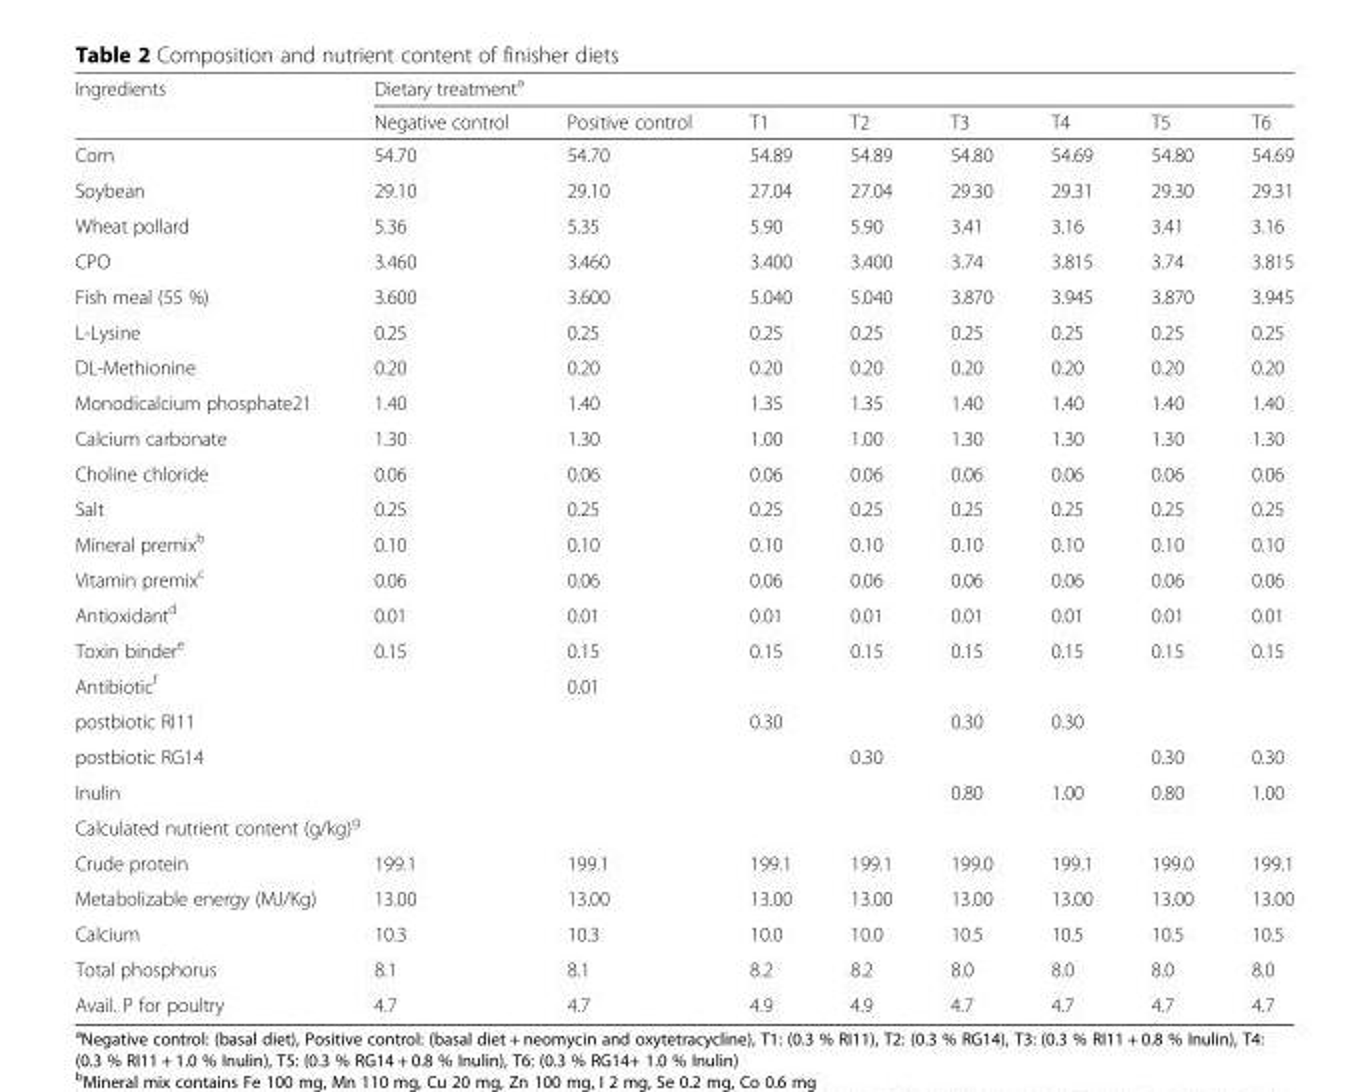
<table><thead><tr><td rowspan="2">Ingredients</td><td colspan="8">Dietary treatment<sup>a</sup></td></tr><tr><td>Negative control</td><td>Positive control</td><td>T1</td><td>T2</td><td>T3</td><td>T4</td><td>T5</td><td>T6</td></tr></thead><tbody><tr><td>Corn</td><td>54.70</td><td>54.70</td><td>54.89</td><td>54.89</td><td>54.80</td><td>54.69</td><td>54.80</td><td>54.69</td></tr><tr><td>Soybean</td><td>29.10</td><td>29.10</td><td>27.04</td><td>27.04</td><td>29.30</td><td>29.31</td><td>29.30</td><td>29.31</td></tr><tr><td>Wheat pollard</td><td>5.36</td><td>5.35</td><td>5.90</td><td>5.90</td><td>3.41</td><td>3.16</td><td>3.41</td><td>3.16</td></tr><tr><td>CPO</td><td>3.460</td><td>3.460</td><td>3.400</td><td>3.400</td><td>3.74</td><td>3.815</td><td>3.74</td><td>3.815</td></tr><tr><td>Fish meal (55 %)</td><td>3.600</td><td>3.600</td><td>5.040</td><td>5.040</td><td>3.870</td><td>3.945</td><td>3.870</td><td>3.945</td></tr><tr><td>L-Lysine</td><td>0.25</td><td>0.25</td><td>0.25</td><td>0.25</td><td>0.25</td><td>0.25</td><td>0.25</td><td>0.25</td></tr><tr><td>DL-Methionine</td><td>0.20</td><td>0.20</td><td>0.20</td><td>0.20</td><td>0.20</td><td>0.20</td><td>0.20</td><td>0.20</td></tr><tr><td>Monodicalcium phosphate21</td><td>1.40</td><td>1.40</td><td>1.35</td><td>1.35</td><td>1.40</td><td>1.40</td><td>1.40</td><td>1.40</td></tr><tr><td>Calcium carbonate</td><td>1.30</td><td>1.30</td><td>1.00</td><td>1.00</td><td>1.30</td><td>1.30</td><td>1.30</td><td>1.30</td></tr><tr><td>Choline chloride</td><td>0.06</td><td>0.06</td><td>0.06</td><td>0.06</td><td>0.06</td><td>0.06</td><td>0.06</td><td>0.06</td></tr><tr><td>Salt</td><td>0.25</td><td>0.25</td><td>0.25</td><td>0.25</td><td>0.25</td><td>0.25</td><td>0.25</td><td>0.25</td></tr><tr><td>Mineral premix<sup>b</sup></td><td>0.10</td><td>0.10</td><td>0.10</td><td>0.10</td><td>0.10</td><td>0.10</td><td>0.10</td><td>0.10</td></tr><tr><td>Vitamin premix<sup>c</sup></td><td>0.06</td><td>0.06</td><td>0.06</td><td>0.06</td><td>0.06</td><td>0.06</td><td>0.06</td><td>0.06</td></tr><tr><td>Antioxidant<sup>d</sup></td><td>0.01</td><td>0.01</td><td>0.01</td><td>0.01</td><td>0.01</td><td>0.01</td><td>0.01</td><td>0.01</td></tr><tr><td>Toxin binder<sup>e</sup></td><td>0.15</td><td>0.15</td><td>0.15</td><td>0.15</td><td>0.15</td><td>0.15</td><td>0.15</td><td>0.15</td></tr><tr><td>Antibiotic<sup>f</sup></td><td></td><td>0.01</td><td></td><td></td><td></td><td></td><td></td><td></td></tr><tr><td>postbiotic RI11</td><td></td><td></td><td>0.30</td><td></td><td>0.30</td><td>0.30</td><td></td><td></td></tr><tr><td>postbiotic RG14</td><td></td><td></td><td></td><td>0.30</td><td></td><td></td><td>0.30</td><td>0.30</td></tr><tr><td>Inulin</td><td></td><td></td><td></td><td></td><td>0.80</td><td>1.00</td><td>0.80</td><td>1.00</td></tr><tr><td colspan="9">Calculated nutrient content (g/kg)<sup>g</sup></td></tr><tr><td>Crude protein</td><td>199.1</td><td>199.1</td><td>199.1</td><td>199.1</td><td>199.0</td><td>199.1</td><td>199.0</td><td>199.1</td></tr><tr><td>Metabolizable energy (MJ/Kg)</td><td>13.00</td><td>13.00</td><td>13.00</td><td>13.00</td><td>13.00</td><td>13.00</td><td>13.00</td><td>13.00</td></tr><tr><td>Calcium</td><td>10.3</td><td>10.3</td><td>10.0</td><td>10.0</td><td>10.5</td><td>10.5</td><td>10.5</td><td>10.5</td></tr><tr><td>Total phosphorus</td><td>8.1</td><td>8.1</td><td>8.2</td><td>8.2</td><td>8.0</td><td>8.0</td><td>8.0</td><td>8.0</td></tr><tr><td>Avail. P for poultry</td><td>4.7</td><td>4.7</td><td>4.9</td><td>4.9</td><td>4.7</td><td>4.7</td><td>4.7</td><td>4.7</td></tr></tbody></table>